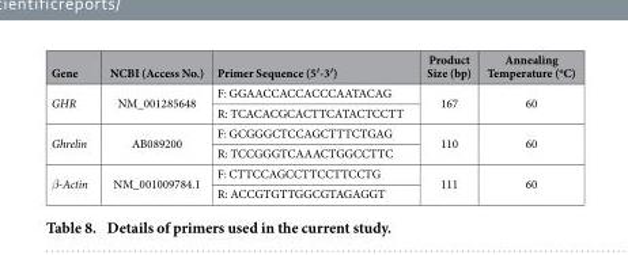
<table><thead><tr><td>Gene</td><td>NCBI (Access No.)</td><td>Primer Sequence (5′-3′)</td><td>Product Size (bp)</td><td>Annealing Temperature (<sup>o</sup>C)</td></tr></thead><tbody><tr><td rowspan="2">GHR</td><td rowspan="2">NM_001285648</td><td>F: GGAACCACCACCCAATACAG</td><td rowspan="2">167</td><td rowspan="2">60</td></tr><tr><td>R: TCACACGCACTTCATACTCCTT</td></tr><tr><td rowspan="2">Ghrelin</td><td rowspan="2">AB089200</td><td>F: GCGGGCTCCAGCTTTCTGAG</td><td rowspan="2">110</td><td rowspan="2">60</td></tr><tr><td>R: TCCGGGTCAAACTGGCCTTC</td></tr><tr><td rowspan="2">β-Actin</td><td rowspan="2">NM_001009784.1</td><td>F: CTTCCAGCCTTCCTTCCTG</td><td rowspan="2">111</td><td rowspan="2">60</td></tr><tr><td>R: ACCGTGTTGGCGTAGAGGT</td></tr></tbody></table>